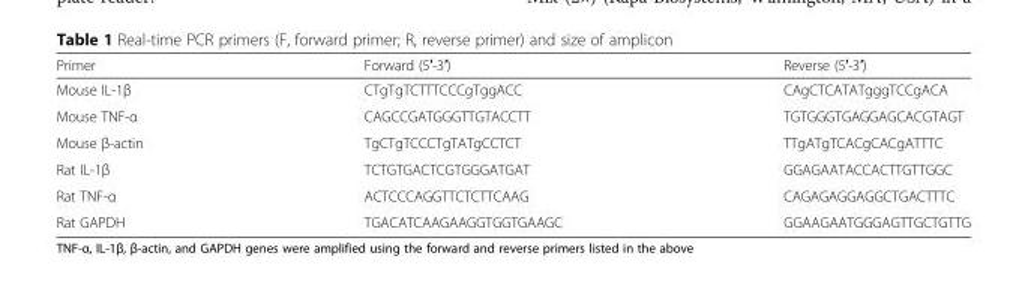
<table><thead><tr><td>Primer</td><td>Forward (5′-3′)</td><td>Reverse (5′-3′)</td></tr></thead><tbody><tr><td>Mouse IL-1β</td><td>CTgTgTCTTTCCCgTggACC</td><td>CAgCTCATATgggTCCgACA</td></tr><tr><td>Mouse TNF-α</td><td>CAGCCGATGGGTTGTACCTT</td><td>TGTGGGTGAGGAGCACGTAGT</td></tr><tr><td>Mouse β-actin</td><td>TgCTgTCCCTgTATgCCTCT</td><td>TTgATgTCACgCACgATTTC</td></tr><tr><td>Rat IL-1β</td><td>TCTGTGACTCGTGGGATGAT</td><td>GGAGAATACCACTTGTTGGC</td></tr><tr><td>Rat TNF-α</td><td>ACTCCCAGGTTCTCTTCAAG</td><td>CAGAGAGGAGGCTGACTTTC</td></tr><tr><td>Rat GAPDH</td><td>TGACATCAAGAAGGTGGTGAAGC</td><td>GGAAGAATGGGAGTTGCTGTTG</td></tr></tbody></table>